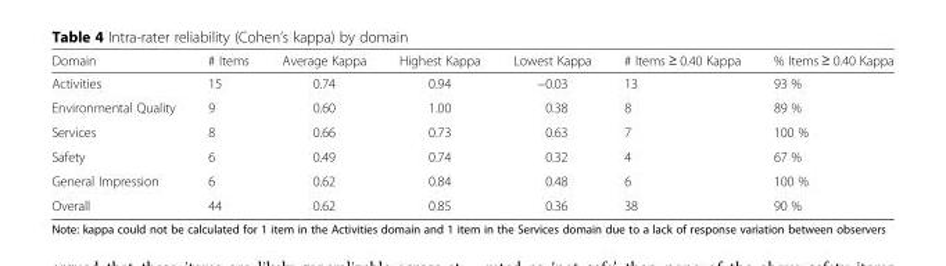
<table><thead><tr><td>Domain</td><td># Items</td><td>Average Kappa</td><td>Highest Kappa</td><td>Lowest Kappa</td><td># Items ≥ 0.40 Kappa</td><td>% Items ≥ 0.40 Kappa</td></tr></thead><tbody><tr><td>Activities</td><td>15</td><td>0.74</td><td>0.94</td><td>−0.03</td><td>13</td><td>93 %</td></tr><tr><td>Environmental Quality</td><td>9</td><td>0.60</td><td>1.00</td><td>0.38</td><td>8</td><td>89 %</td></tr><tr><td>Services</td><td>8</td><td>0.66</td><td>0.73</td><td>0.63</td><td>7</td><td>100 %</td></tr><tr><td>Safety</td><td>6</td><td>0.49</td><td>0.74</td><td>0.32</td><td>4</td><td>67 %</td></tr><tr><td>General Impression</td><td>6</td><td>0.62</td><td>0.84</td><td>0.48</td><td>6</td><td>100 %</td></tr><tr><td>Overall</td><td>44</td><td>0.62</td><td>0.85</td><td>0.36</td><td>38</td><td>90 %</td></tr></tbody></table>